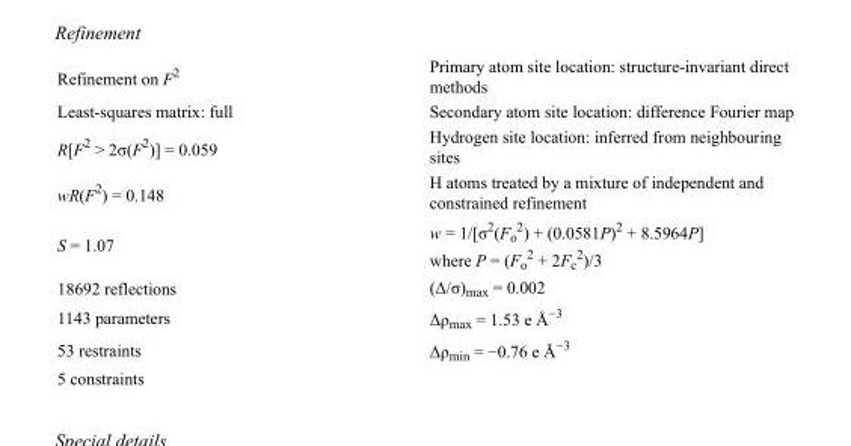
<table><tbody><tr><td>Refinement on F<sup>2</sup></td><td>Primary atom site location: structure-invariant direct methods</td></tr><tr><td>Least-squares matrix: full</td><td>Secondary atom site location: difference Fourier map</td></tr><tr><td>R[F<sup>2</sup> &gt; 2σ(F<sup>2</sup>)] = 0.059</td><td>Hydrogen site location: inferred from neighbouring sites</td></tr><tr><td>wR(F<sup>2</sup>) = 0.148</td><td>H atoms treated by a mixture of independent and constrained refinement</td></tr><tr><td>S = 1.07</td><td>w = 1/[σ<sup>2</sup>(F<sub>o</sub> <sup>2</sup>) + (0.0581P)<sup>2</sup> + 8.5964P] where P = (F<sub>o</sub> <sup>2</sup> + 2F<sub>c</sub> <sup>2</sup>)/3</td></tr><tr><td>18692 reflections</td><td>(Δ/σ)<sub>max</sub> = 0.002</td></tr><tr><td>1143 parameters</td><td>Δρ<sub>max</sub> = 1.53 e Å<sup>−3</sup></td></tr><tr><td>53 restraints</td><td>Δρ<sub>min</sub> = −0.76 e Å<sup>−3</sup></td></tr><tr><td>5 constraints</td><td></td></tr></tbody></table>